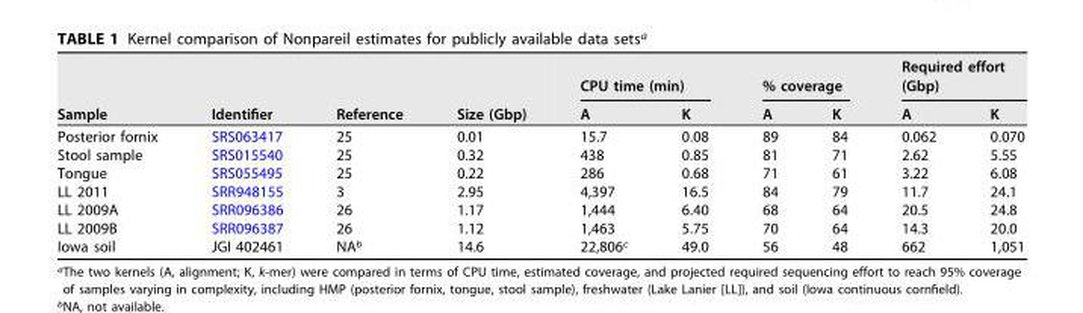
<table><thead><tr><td rowspan="2">Sample</td><td rowspan="2">Identifier</td><td rowspan="2">Reference</td><td rowspan="2">Size (Gbp)</td><td colspan="2">CPU time (min)</td><td colspan="2">% coverage</td><td colspan="2">Required effort (Gbp)</td></tr><tr><td>A</td><td>K</td><td>A</td><td>K</td><td>A</td><td>K</td></tr></thead><tbody><tr><td>Posterior fornix</td><td>SRS063417</td><td>25</td><td>0.01</td><td>15.7</td><td>0.08</td><td>89</td><td>84</td><td>0.062</td><td>0.070</td></tr><tr><td>Stool sample</td><td>SRS015540</td><td>25</td><td>0.32</td><td>438</td><td>0.85</td><td>81</td><td>71</td><td>2.62</td><td>5.55</td></tr><tr><td>Tongue</td><td>SRS055495</td><td>25</td><td>0.22</td><td>286</td><td>0.68</td><td>71</td><td>61</td><td>3.22</td><td>6.08</td></tr><tr><td>LL 2011</td><td>SRR948155</td><td>3</td><td>2.95</td><td>4,397</td><td>16.5</td><td>84</td><td>79</td><td>11.7</td><td>24.1</td></tr><tr><td>LL 2009A</td><td>SRR096386</td><td>26</td><td>1.17</td><td>1,444</td><td>6.40</td><td>68</td><td>64</td><td>20.5</td><td>24.8</td></tr><tr><td>LL 2009B</td><td>SRR096387</td><td>26</td><td>1.12</td><td>1,463</td><td>5.75</td><td>70</td><td>64</td><td>14.3</td><td>20.0</td></tr><tr><td>Iowa soil</td><td>JGI 402461</td><td>NA<sup>b</sup></td><td>14.6</td><td>22,806<sup>c</sup></td><td>49.0</td><td>56</td><td>48</td><td>662</td><td>1,051</td></tr></tbody></table>